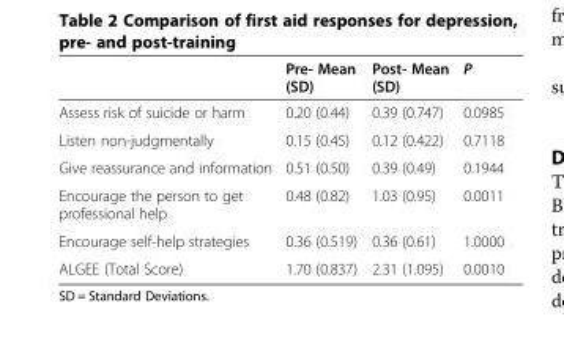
<table><thead><tr><td></td><td>Pre- Mean (SD)</td><td>Post- Mean (SD)</td><td>P</td></tr></thead><tbody><tr><td>Assess risk of suicide or harm</td><td>0.20 (0.44)</td><td>0.39 (0.747)</td><td>0.0985</td></tr><tr><td>Listen non-judgmentally</td><td>0.15 (0.45)</td><td>0.12 (0.422)</td><td>0.7118</td></tr><tr><td>Give reassurance and information</td><td>0.51 (0.50)</td><td>0.39 (0.49)</td><td>0.1944</td></tr><tr><td>Encourage the person to get professional help</td><td>0.48 (0.82)</td><td>1.03 (0.95)</td><td>0.0011</td></tr><tr><td>Encourage self-help strategies</td><td>0.36 (0.519)</td><td>0.36 (0.61)</td><td>1.0000</td></tr><tr><td>ALGEE (Total Score)</td><td>1.70 (0.837)</td><td>2.31 (1.095)</td><td>0.0010</td></tr></tbody></table>